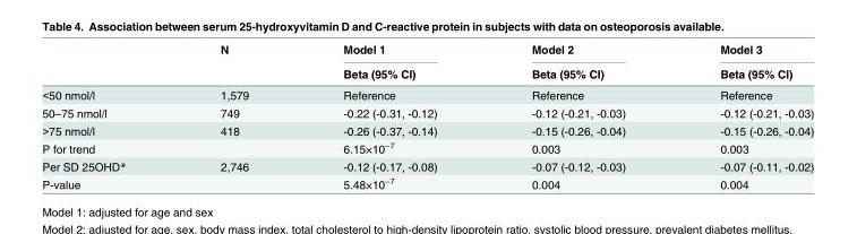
<table><thead><tr><td rowspan="2"></td><td rowspan="2">N</td><td rowspan="2">Model 1 Beta (95% CI)</td><td rowspan="2">Model 2 Beta (95% CI)</td><td rowspan="2">Model 3 Beta (95% CI)</td></tr><tr></tr></thead><tbody><tr><td>&lt;50 nmol/l</td><td>1,579</td><td>Reference</td><td>Reference</td><td>Reference</td></tr><tr><td>50–75 nmol/l</td><td>749</td><td>-0.22 (-0.31, -0.12)</td><td>-0.12 (-0.21, -0.03)</td><td>-0.12 (-0.21, -0.03)</td></tr><tr><td>&gt;75 nmol/l</td><td>418</td><td>-0.26 (-0.37, -0.14)</td><td>-0.15 (-0.26, -0.04)</td><td>-0.15 (-0.26, -0.04)</td></tr><tr><td>P for trend</td><td></td><td>6.15×10<sup>−7</sup></td><td>0.003</td><td>0.003</td></tr><tr><td>Per SD 25OHD*</td><td>2,746</td><td>-0.12 (-0.17, -0.08)</td><td>-0.07 (-0.12, -0.03)</td><td>-0.07 (-0.11, -0.02)</td></tr><tr><td>P-value</td><td></td><td>5.48×10<sup>−7</sup></td><td>0.004</td><td>0.004</td></tr></tbody></table>